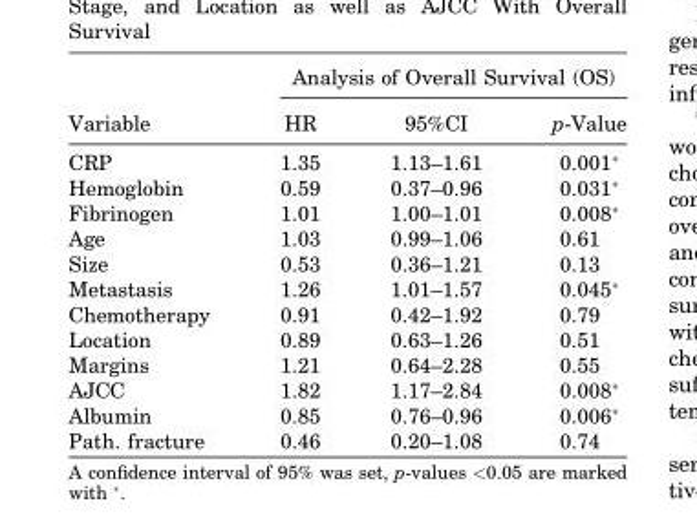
<table><thead><tr><td rowspan="2">Variable</td><td colspan="3">Analysis of Overall Survival (OS)</td></tr><tr><td>HR</td><td>95%CI</td><td>p-Value</td></tr></thead><tbody><tr><td>CRP</td><td>1.35</td><td>1.13–1.61</td><td>0.001*</td></tr><tr><td>Hemoglobin</td><td>0.59</td><td>0.37–0.96</td><td>0.031*</td></tr><tr><td>Fibrinogen</td><td>1.01</td><td>1.00–1.01</td><td>0.008*</td></tr><tr><td>Age</td><td>1.03</td><td>0.99–1.06</td><td>0.61</td></tr><tr><td>Size</td><td>0.53</td><td>0.36–1.21</td><td>0.13</td></tr><tr><td>Metastasis</td><td>1.26</td><td>1.01–1.57</td><td>0.045*</td></tr><tr><td>Chemotherapy</td><td>0.91</td><td>0.42–1.92</td><td>0.79</td></tr><tr><td>Location</td><td>0.89</td><td>0.63–1.26</td><td>0.51</td></tr><tr><td>Margins</td><td>1.21</td><td>0.64–2.28</td><td>0.55</td></tr><tr><td>AJCC</td><td>1.82</td><td>1.17–2.84</td><td>0.008*</td></tr><tr><td>Albumin</td><td>0.85</td><td>0.76–0.96</td><td>0.006*</td></tr><tr><td>Path. fracture</td><td>0.46</td><td>0.20–1.08</td><td>0.74</td></tr></tbody></table>